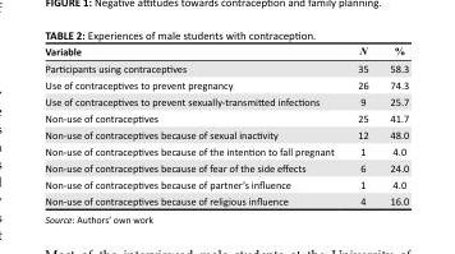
<table><thead><tr><td>Variable</td><td>N</td><td>%</td></tr></thead><tbody><tr><td>Participants using contraceptives</td><td>35</td><td>58.3</td></tr><tr><td>Use of contraceptives to prevent pregnancy</td><td>26</td><td>74.3</td></tr><tr><td>Use of contraceptives to prevent sexually-transmitted infections</td><td>9</td><td>25.7</td></tr><tr><td>Non-use of contraceptives</td><td>25</td><td>41.7</td></tr><tr><td>Non-use of contraceptives because of sexual inactivity</td><td>12</td><td>48.0</td></tr><tr><td>Non-use of contraceptives because of the intention to fall pregnant</td><td>1</td><td>4.0</td></tr><tr><td>Non-use of contraceptives because of fear of the side effects</td><td>6</td><td>24.0</td></tr><tr><td>Non-use of contraceptives because of partner’s influence</td><td>1</td><td>4.0</td></tr><tr><td>Non-use of contraceptives because of religious influence</td><td>4</td><td>16.0</td></tr></tbody></table>